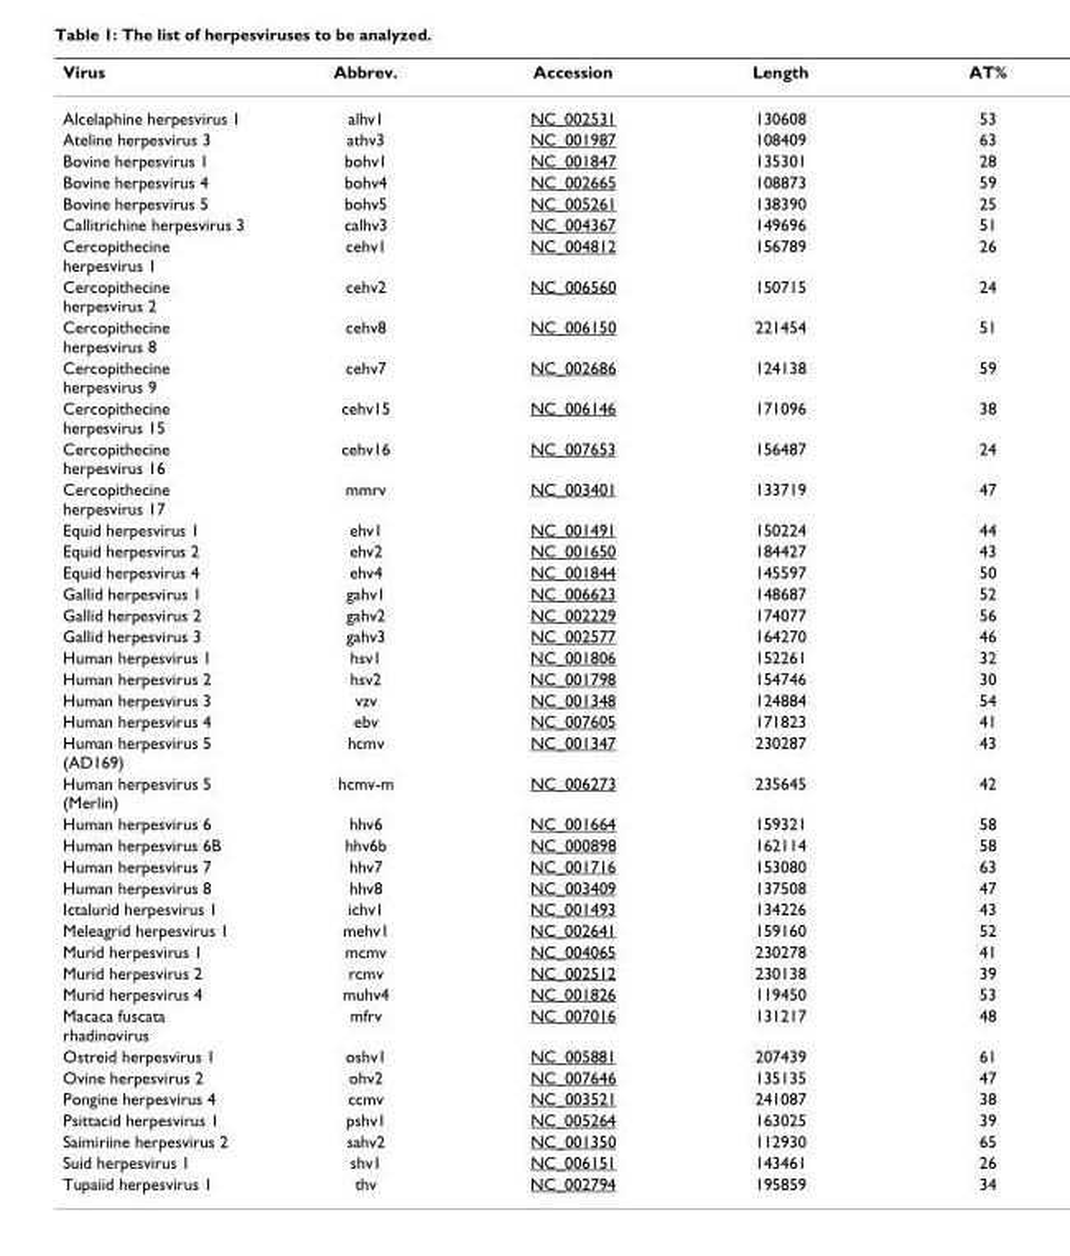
<table><thead><tr><td>Virus</td><td>Abbrev.</td><td>Accession</td><td>Length</td><td>AT%</td></tr></thead><tbody><tr><td>Alcelaphine herpesvirus 1</td><td>alhv1</td><td>NC_002531</td><td>130608</td><td>53</td></tr><tr><td>Ateline herpesvirus 3</td><td>athv3</td><td>NC_001987</td><td>108409</td><td>63</td></tr><tr><td>Bovine herpesvirus 1</td><td>bohv1</td><td>NC_001847</td><td>135301</td><td>28</td></tr><tr><td>Bovine herpesvirus 4</td><td>bohv4</td><td>NC_002665</td><td>108873</td><td>59</td></tr><tr><td>Bovine herpesvirus 5</td><td>bohv5</td><td>NC_005261</td><td>138390</td><td>25</td></tr><tr><td>Callitrichine herpesvirus 3</td><td>calhv3</td><td>NC_004367</td><td>149696</td><td>51</td></tr><tr><td>Cercopithecine herpesvirus 1</td><td>cehv1</td><td>NC_004812</td><td>156789</td><td>26</td></tr><tr><td>Cercopithecine herpesvirus 2</td><td>cehv2</td><td>NC_006560</td><td>150715</td><td>24</td></tr><tr><td>Cercopithecine herpesvirus 8</td><td>cehv8</td><td>NC_006150</td><td>221454</td><td>51</td></tr><tr><td>Cercopithecine herpesvirus 9</td><td>cehv7</td><td>NC_002686</td><td>124138</td><td>59</td></tr><tr><td>Cercopithecine herpesvirus 15</td><td>cehv15</td><td>NC_006146</td><td>171096</td><td>38</td></tr><tr><td>Cercopithecine herpesvirus 16</td><td>cehv16</td><td>NC_007653</td><td>156487</td><td>24</td></tr><tr><td>Cercopithecine herpesvirus 17</td><td>mmrv</td><td>NC_003401</td><td>133719</td><td>47</td></tr><tr><td>Equid herpesvirus 1</td><td>ehv1</td><td>NC_001491</td><td>150224</td><td>44</td></tr><tr><td>Equid herpesvirus 2</td><td>ehv2</td><td>NC_001650</td><td>184427</td><td>43</td></tr><tr><td>Equid herpesvirus 4</td><td>ehv4</td><td>NC_001844</td><td>145597</td><td>50</td></tr><tr><td>Gallid herpesvirus 1</td><td>gahv1</td><td>NC_006623</td><td>148687</td><td>52</td></tr><tr><td>Gallid herpesvirus 2</td><td>gahv2</td><td>NC_002229</td><td>174077</td><td>56</td></tr><tr><td>Gallid herpesvirus 3</td><td>gahv3</td><td>NC_002577</td><td>164270</td><td>46</td></tr><tr><td>Human herpesvirus 1</td><td>hsv1</td><td>NC_001806</td><td>152261</td><td>32</td></tr><tr><td>Human herpesvirus 2</td><td>hsv2</td><td>NC_001798</td><td>154746</td><td>30</td></tr><tr><td>Human herpesvirus 3</td><td>vzv</td><td>NC_001348</td><td>124884</td><td>54</td></tr><tr><td>Human herpesvirus 4</td><td>ebv</td><td>NC_007605</td><td>171823</td><td>41</td></tr><tr><td>Human herpesvirus 5 (AD169)</td><td>hcmv</td><td>NC_001347</td><td>230287</td><td>43</td></tr><tr><td>Human herpesvirus 5 (Merlin)</td><td>hcmv-m</td><td>NC_006273</td><td>235645</td><td>42</td></tr><tr><td>Human herpesvirus 6</td><td>hhv6</td><td>NC_001664</td><td>159321</td><td>58</td></tr><tr><td>Human herpesvirus 6B</td><td>hhv6b</td><td>NC_000898</td><td>162114</td><td>58</td></tr><tr><td>Human herpesvirus 7</td><td>hhv7</td><td>NC_001716</td><td>153080</td><td>63</td></tr><tr><td>Human herpesvirus 8</td><td>hhv8</td><td>NC_003409</td><td>137508</td><td>47</td></tr><tr><td>Ictalurid herpesvirus 1</td><td>ichv1</td><td>NC_001493</td><td>134226</td><td>43</td></tr><tr><td>Meleagrid herpesvirus 1</td><td>mehv1</td><td>NC_002641</td><td>159160</td><td>52</td></tr><tr><td>Murid herpesvirus 1</td><td>mcmv</td><td>NC_004065</td><td>230278</td><td>41</td></tr><tr><td>Murid herpesvirus 2</td><td>rcmv</td><td>NC_002512</td><td>230138</td><td>39</td></tr><tr><td>Murid herpesvirus 4</td><td>muhv4</td><td>NC_001826</td><td>119450</td><td>53</td></tr><tr><td>Macaca fuscata rhadinovirus</td><td>mfrv</td><td>NC_007016</td><td>131217</td><td>48</td></tr><tr><td>Ostreid herpesvirus 1</td><td>oshv1</td><td>NC_005881</td><td>207439</td><td>61</td></tr><tr><td>Ovine herpesvirus 2</td><td>ohv2</td><td>NC_007646</td><td>135135</td><td>47</td></tr><tr><td>Pongine herpesvirus 4</td><td>ccmv</td><td>NC_003521</td><td>241087</td><td>38</td></tr><tr><td>Psittacid herpesvirus 1</td><td>pshv1</td><td>NC_005264</td><td>163025</td><td>39</td></tr><tr><td>Saimiriine herpesvirus 2</td><td>sahv2</td><td>NC_001350</td><td>112930</td><td>65</td></tr><tr><td>Suid herpesvirus 1</td><td>shv1</td><td>NC_006151</td><td>143461</td><td>26</td></tr><tr><td>Tupaiid herpesvirus 1</td><td>thv</td><td>NC_002794</td><td>195859</td><td>34</td></tr></tbody></table>